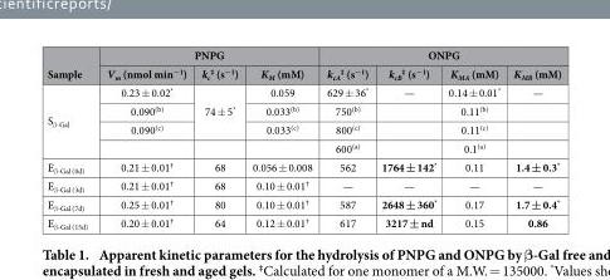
<table><thead><tr><td rowspan="2">Sample</td><td colspan="3">PNPG</td><td colspan="4">ONPG</td></tr><tr><td>V<sub>m</sub> (nmol min<sup>−1</sup>)</td><td>k<sub>c</sub> ‡ (s<sup>−1</sup>)</td><td>K<sub>M</sub> (mM)</td><td>k<sub>cA</sub> ‡ (s<sup>−1</sup>)</td><td>k<sub>cB</sub> ‡ (s<sup>−1</sup>)</td><td>K<sub>MA</sub> (mM)</td><td>K<sub>MB</sub> (mM)</td></tr></thead><tbody><tr><td rowspan="4">S<sub>β-Gal</sub></td><td>0.23 ± 0.02*</td><td rowspan="3">74 ± 5*</td><td>0.059</td><td>629 ± 36*</td><td>—</td><td>0.14 ± 0.01*</td><td>—</td></tr><tr><td>0.090<sup>(b)</sup></td><td>0.033<sup>(b)</sup></td><td>750<sup>(b)</sup></td><td></td><td>0.11<sup>(b)</sup></td><td></td></tr><tr><td>0.090<sup>(c)</sup></td><td>0.033<sup>(c)</sup></td><td>800<sup>(c)</sup></td><td></td><td>0.11<sup>(c)</sup></td><td></td></tr><tr><td></td><td></td><td></td><td>600<sup>(a)</sup></td><td></td><td>0.1<sup>(a)</sup></td><td></td></tr><tr><td>E<sub>β-Gal (0d)</sub></td><td>0.21 ± 0.01†</td><td>68</td><td>0.056 ± 0.008</td><td>562</td><td>1764 ± 142*</td><td>0.11</td><td>1.4 ± 0.3*</td></tr><tr><td>E<sub>β-Gal (3d)</sub></td><td>0.21 ± 0.01†</td><td>68</td><td>0.10 ± 0.01†</td><td>—</td><td>—</td><td>—</td><td>—</td></tr><tr><td>E<sub>β-Gal (7d)</sub></td><td>0.25 ± 0.01†</td><td>80</td><td>0.10 ± 0.01†</td><td>587</td><td>2648 ± 360*</td><td>0.17</td><td>1.7 ± 0.4*</td></tr><tr><td>E<sub>β-Gal (15d)</sub></td><td>0.20 ± 0.01†</td><td>64</td><td>0.12 ± 0.01†</td><td>617</td><td>3217 ± nd</td><td>0.15</td><td>0.86</td></tr></tbody></table>